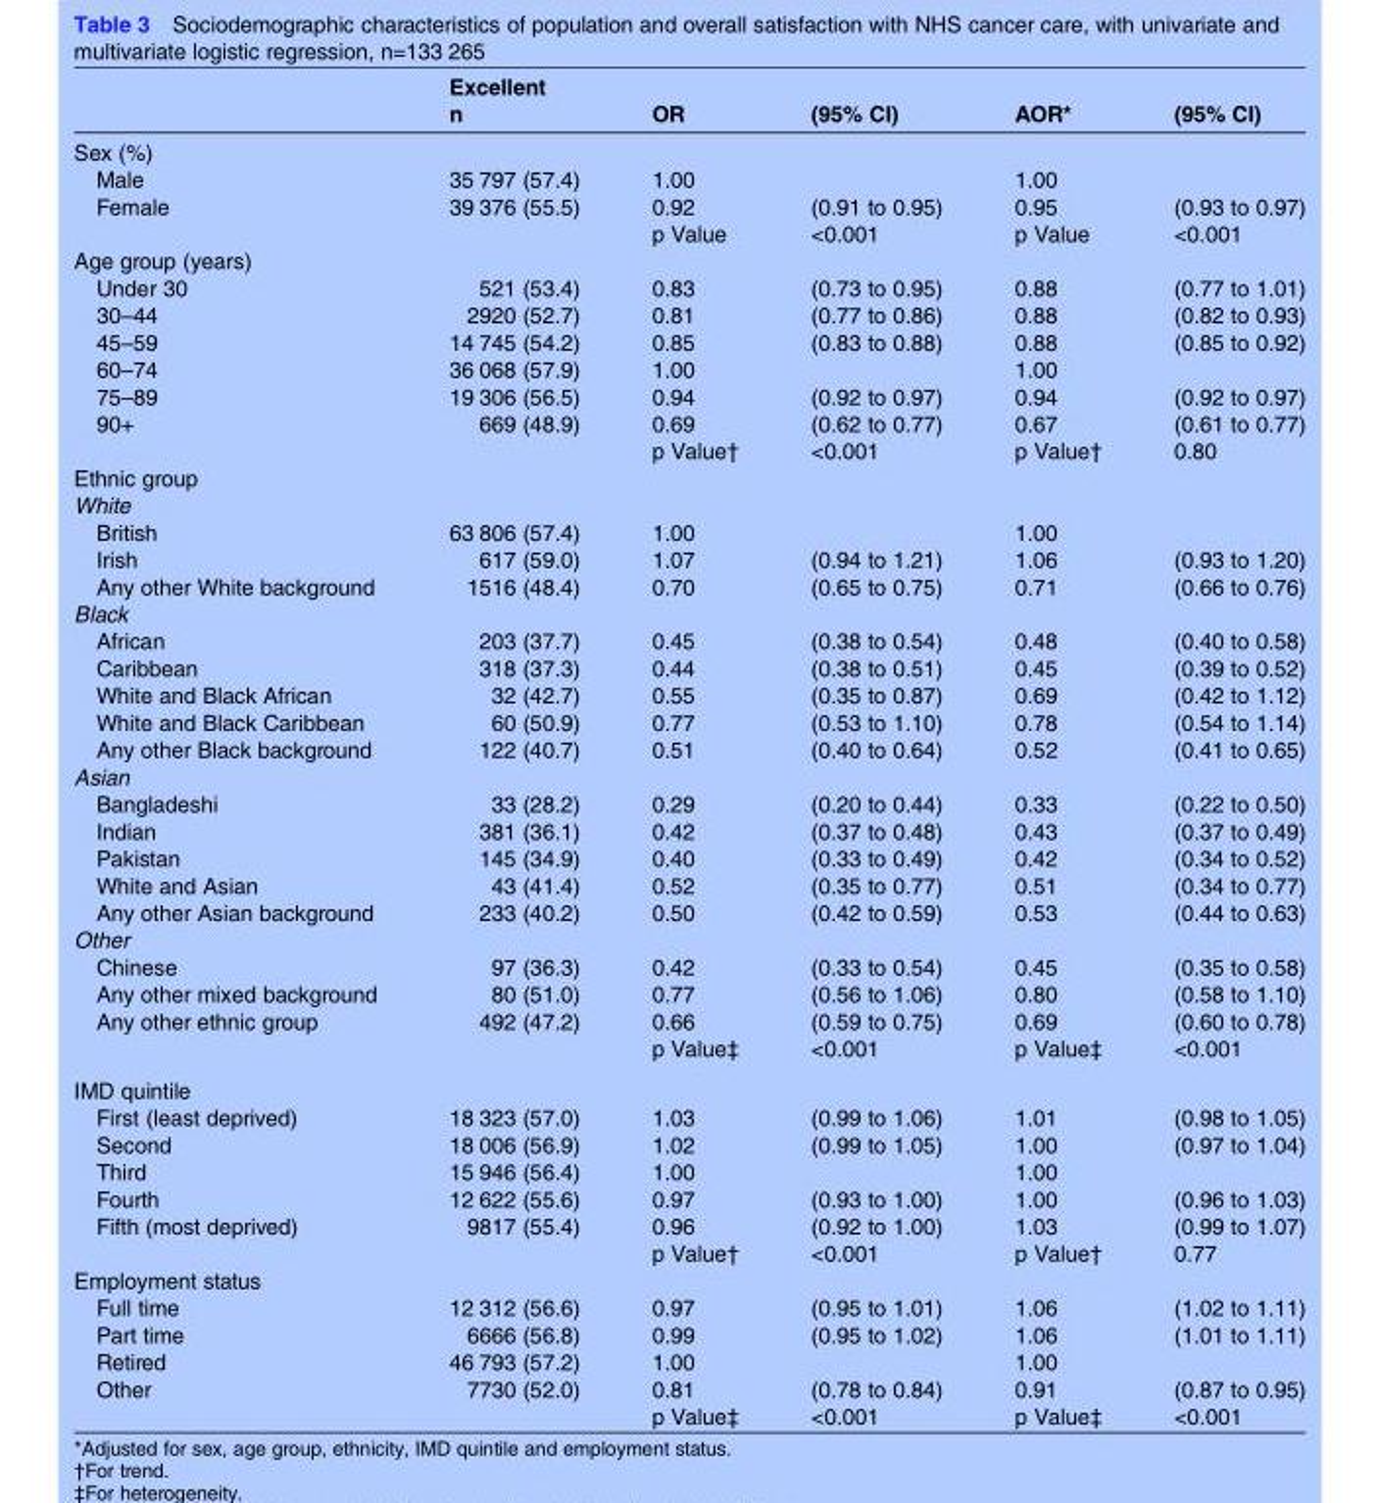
<table><thead><tr><td rowspan="2"></td><td rowspan="2">Excellent n</td><td rowspan="2">OR</td><td rowspan="2">(95% CI)</td><td rowspan="2">AOR*</td><td rowspan="2">(95% CI)</td></tr><tr></tr></thead><tbody><tr><td colspan="6">Sex (%)</td></tr><tr><td>Male</td><td>35 797 (57.4)</td><td>1.00</td><td></td><td>1.00</td><td></td></tr><tr><td>Female</td><td>39 376 (55.5)</td><td>0.92</td><td>(0.91 to 0.95)</td><td>0.95</td><td>(0.93 to 0.97)</td></tr><tr><td colspan="2"></td><td>p Value</td><td>&lt;0.001</td><td>p Value</td><td>&lt;0.001</td></tr><tr><td colspan="6">Age group (years)</td></tr><tr><td>Under 30</td><td>521 (53.4)</td><td>0.83</td><td>(0.73 to 0.95)</td><td>0.88</td><td>(0.77 to 1.01)</td></tr><tr><td>30–44</td><td>2920 (52.7)</td><td>0.81</td><td>(0.77 to 0.86)</td><td>0.88</td><td>(0.82 to 0.93)</td></tr><tr><td>45–59</td><td>14 745 (54.2)</td><td>0.85</td><td>(0.83 to 0.88)</td><td>0.88</td><td>(0.85 to 0.92)</td></tr><tr><td>60–74</td><td>36 068 (57.9)</td><td>1.00</td><td></td><td>1.00</td><td></td></tr><tr><td>75–89</td><td>19 306 (56.5)</td><td>0.94</td><td>(0.92 to 0.97)</td><td>0.94</td><td>(0.92 to 0.97)</td></tr><tr><td>90+</td><td>669 (48.9)</td><td>0.69</td><td>(0.62 to 0.77)</td><td>0.67</td><td>(0.61 to 0.77)</td></tr><tr><td colspan="2"></td><td>p Value†</td><td>&lt;0.001</td><td>p Value†</td><td>0.80</td></tr><tr><td colspan="6">Ethnic group</td></tr><tr><td colspan="6">White</td></tr><tr><td>British</td><td>63 806 (57.4)</td><td>1.00</td><td></td><td>1.00</td><td></td></tr><tr><td>Irish</td><td>617 (59.0)</td><td>1.07</td><td>(0.94 to 1.21)</td><td>1.06</td><td>(0.93 to 1.20)</td></tr><tr><td>Any other White background</td><td>1516 (48.4)</td><td>0.70</td><td>(0.65 to 0.75)</td><td>0.71</td><td>(0.66 to 0.76)</td></tr><tr><td colspan="6">Black</td></tr><tr><td>African</td><td>203 (37.7)</td><td>0.45</td><td>(0.38 to 0.54)</td><td>0.48</td><td>(0.40 to 0.58)</td></tr><tr><td>Caribbean</td><td>318 (37.3)</td><td>0.44</td><td>(0.38 to 0.51)</td><td>0.45</td><td>(0.39 to 0.52)</td></tr><tr><td>White and Black African</td><td>32 (42.7)</td><td>0.55</td><td>(0.35 to 0.87)</td><td>0.69</td><td>(0.42 to 1.12)</td></tr><tr><td>White and Black Caribbean</td><td>60 (50.9)</td><td>0.77</td><td>(0.53 to 1.10)</td><td>0.78</td><td>(0.54 to 1.14)</td></tr><tr><td>Any other Black background</td><td>122 (40.7)</td><td>0.51</td><td>(0.40 to 0.64)</td><td>0.52</td><td>(0.41 to 0.65)</td></tr><tr><td colspan="6">Asian</td></tr><tr><td>Bangladeshi</td><td>33 (28.2)</td><td>0.29</td><td>(0.20 to 0.44)</td><td>0.33</td><td>(0.22 to 0.50)</td></tr><tr><td>Indian</td><td>381 (36.1)</td><td>0.42</td><td>(0.37 to 0.48)</td><td>0.43</td><td>(0.37 to 0.49)</td></tr><tr><td>Pakistan</td><td>145 (34.9)</td><td>0.40</td><td>(0.33 to 0.49)</td><td>0.42</td><td>(0.34 to 0.52)</td></tr><tr><td>White and Asian</td><td>43 (41.4)</td><td>0.52</td><td>(0.35 to 0.77)</td><td>0.51</td><td>(0.34 to 0.77)</td></tr><tr><td>Any other Asian background</td><td>233 (40.2)</td><td>0.50</td><td>(0.42 to 0.59)</td><td>0.53</td><td>(0.44 to 0.63)</td></tr><tr><td colspan="6">Other</td></tr><tr><td>Chinese</td><td>97 (36.3)</td><td>0.42</td><td>(0.33 to 0.54)</td><td>0.45</td><td>(0.35 to 0.58)</td></tr><tr><td>Any other mixed background</td><td>80 (51.0)</td><td>0.77</td><td>(0.56 to 1.06)</td><td>0.80</td><td>(0.58 to 1.10)</td></tr><tr><td>Any other ethnic group</td><td>492 (47.2)</td><td>0.66</td><td>(0.59 to 0.75)</td><td>0.69</td><td>(0.60 to 0.78)</td></tr><tr><td colspan="2"></td><td>p Value‡</td><td>&lt;0.001</td><td>p Value‡</td><td>&lt;0.001</td></tr><tr><td colspan="6">IMD quintile</td></tr><tr><td>First (least deprived)</td><td>18 323 (57.0)</td><td>1.03</td><td>(0.99 to 1.06)</td><td>1.01</td><td>(0.98 to 1.05)</td></tr><tr><td>Second</td><td>18 006 (56.9)</td><td>1.02</td><td>(0.99 to 1.05)</td><td>1.00</td><td>(0.97 to 1.04)</td></tr><tr><td>Third</td><td>15 946 (56.4)</td><td>1.00</td><td></td><td>1.00</td><td></td></tr><tr><td>Fourth</td><td>12 622 (55.6)</td><td>0.97</td><td>(0.93 to 1.00)</td><td>1.00</td><td>(0.96 to 1.03)</td></tr><tr><td>Fifth (most deprived)</td><td>9817 (55.4)</td><td>0.96</td><td>(0.92 to 1.00)</td><td>1.03</td><td>(0.99 to 1.07)</td></tr><tr><td colspan="2"></td><td>p Value†</td><td>&lt;0.001</td><td>p Value†</td><td>0.77</td></tr><tr><td colspan="6">Employment status</td></tr><tr><td>Full time</td><td>12 312 (56.6)</td><td>0.97</td><td>(0.95 to 1.01)</td><td>1.06</td><td>(1.02 to 1.11)</td></tr><tr><td>Part time</td><td>6666 (56.8)</td><td>0.99</td><td>(0.95 to 1.02)</td><td>1.06</td><td>(1.01 to 1.11)</td></tr><tr><td>Retired</td><td>46 793 (57.2)</td><td>1.00</td><td></td><td>1.00</td><td></td></tr><tr><td>Other</td><td>7730 (52.0)</td><td>0.81</td><td>(0.78 to 0.84)</td><td>0.91</td><td>(0.87 to 0.95)</td></tr><tr><td colspan="2"></td><td>p Value‡</td><td>&lt;0.001</td><td>p Value‡</td><td>&lt;0.001</td></tr></tbody></table>